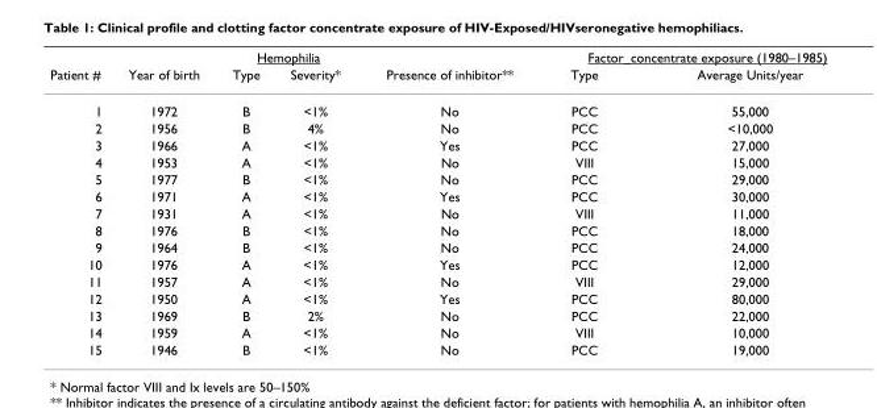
<table><thead><tr><td rowspan="2">Patient #</td><td rowspan="2">Year of birth</td><td colspan="2">Hemophilia</td><td rowspan="2">Presence of inhibitor**</td><td colspan="2">Factor_concentrate exposure (1980–1985)</td></tr><tr><td>Type</td><td>Severity*</td><td>Type</td><td>Average Units/year</td></tr></thead><tbody><tr><td>1</td><td>1972</td><td>B</td><td>&lt;1%</td><td>No</td><td>PCC</td><td>55,000</td></tr><tr><td>2</td><td>1956</td><td>B</td><td>4%</td><td>No</td><td>PCC</td><td>&lt;10,000</td></tr><tr><td>3</td><td>1966</td><td>A</td><td>&lt;1%</td><td>Yes</td><td>PCC</td><td>27,000</td></tr><tr><td>4</td><td>1953</td><td>A</td><td>&lt;1%</td><td>No</td><td>VIII</td><td>15,000</td></tr><tr><td>5</td><td>1977</td><td>B</td><td>&lt;1%</td><td>No</td><td>PCC</td><td>29,000</td></tr><tr><td>6</td><td>1971</td><td>A</td><td>&lt;1%</td><td>Yes</td><td>PCC</td><td>30,000</td></tr><tr><td>7</td><td>1931</td><td>A</td><td>&lt;1%</td><td>No</td><td>VIII</td><td>11,000</td></tr><tr><td>8</td><td>1976</td><td>B</td><td>&lt;1%</td><td>No</td><td>PCC</td><td>18,000</td></tr><tr><td>9</td><td>1964</td><td>B</td><td>&lt;1%</td><td>No</td><td>PCC</td><td>24,000</td></tr><tr><td>10</td><td>1976</td><td>A</td><td>&lt;1%</td><td>Yes</td><td>PCC</td><td>12,000</td></tr><tr><td>11</td><td>1957</td><td>A</td><td>&lt;1%</td><td>No</td><td>VIII</td><td>29,000</td></tr><tr><td>12</td><td>1950</td><td>A</td><td>&lt;1%</td><td>Yes</td><td>PCC</td><td>80,000</td></tr><tr><td>13</td><td>1969</td><td>B</td><td>2%</td><td>No</td><td>PCC</td><td>22,000</td></tr><tr><td>14</td><td>1959</td><td>A</td><td>&lt;1%</td><td>No</td><td>VIII</td><td>10,000</td></tr><tr><td>15</td><td>1946</td><td>B</td><td>&lt;1%</td><td>No</td><td>PCC</td><td>19,000</td></tr></tbody></table>